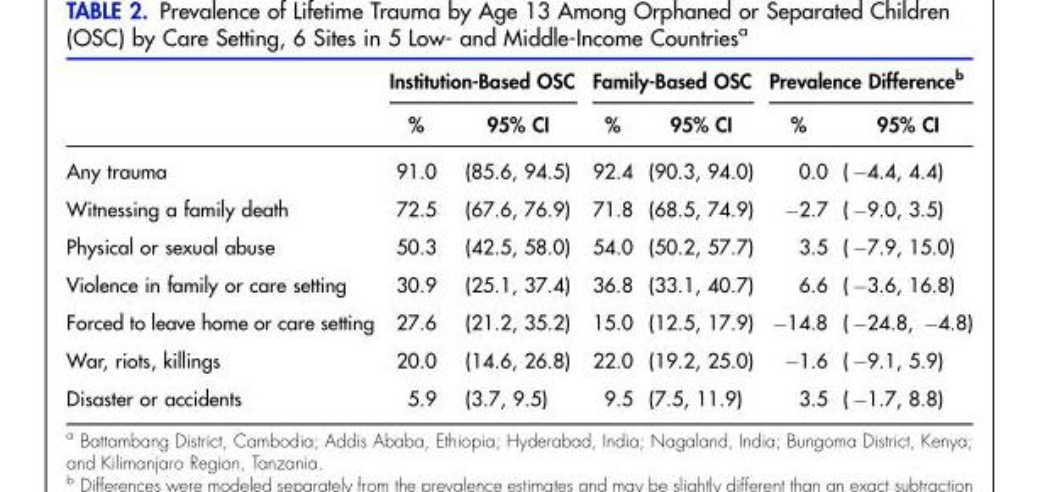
<table><thead><tr><td rowspan="2"></td><td colspan="2">Institution-Based OSC</td><td colspan="2">Family-Based OSC</td><td colspan="2">Prevalence Difference<sup>b</sup></td></tr><tr><td>%</td><td>95% CI</td><td>%</td><td>95% CI</td><td>%</td><td>95% CI</td></tr></thead><tbody><tr><td>Any trauma</td><td>91.0</td><td>(85.6, 94.5)</td><td>92.4</td><td>(90.3, 94.0)</td><td>0.0</td><td>( −4.4, 4.4)</td></tr><tr><td>Witnessing a family death</td><td>72.5</td><td>(67.6, 76.9)</td><td>71.8</td><td>(68.5, 74.9)</td><td>−2.7</td><td>( −9.0, 3.5)</td></tr><tr><td>Physical or sexual abuse</td><td>50.3</td><td>(42.5, 58.0)</td><td>54.0</td><td>(50.2, 57.7)</td><td>3.5</td><td>( −7.9, 15.0)</td></tr><tr><td>Violence in family or care setting</td><td>30.9</td><td>(25.1, 37.4)</td><td>36.8</td><td>(33.1, 40.7)</td><td>6.6</td><td>( −3.6, 16.8)</td></tr><tr><td>Forced to leave home or care setting</td><td>27.6</td><td>(21.2, 35.2)</td><td>15.0</td><td>(12.5, 17.9)</td><td>−14.8</td><td>( −24.8, −4.8)</td></tr><tr><td>War, riots, killings</td><td>20.0</td><td>(14.6, 26.8)</td><td>22.0</td><td>(19.2, 25.0)</td><td>−1.6</td><td>( −9.1, 5.9)</td></tr><tr><td>Disaster or accidents</td><td>5.9</td><td>(3.7, 9.5)</td><td>9.5</td><td>(7.5, 11.9)</td><td>3.5</td><td>( −1.7, 8.8)</td></tr></tbody></table>